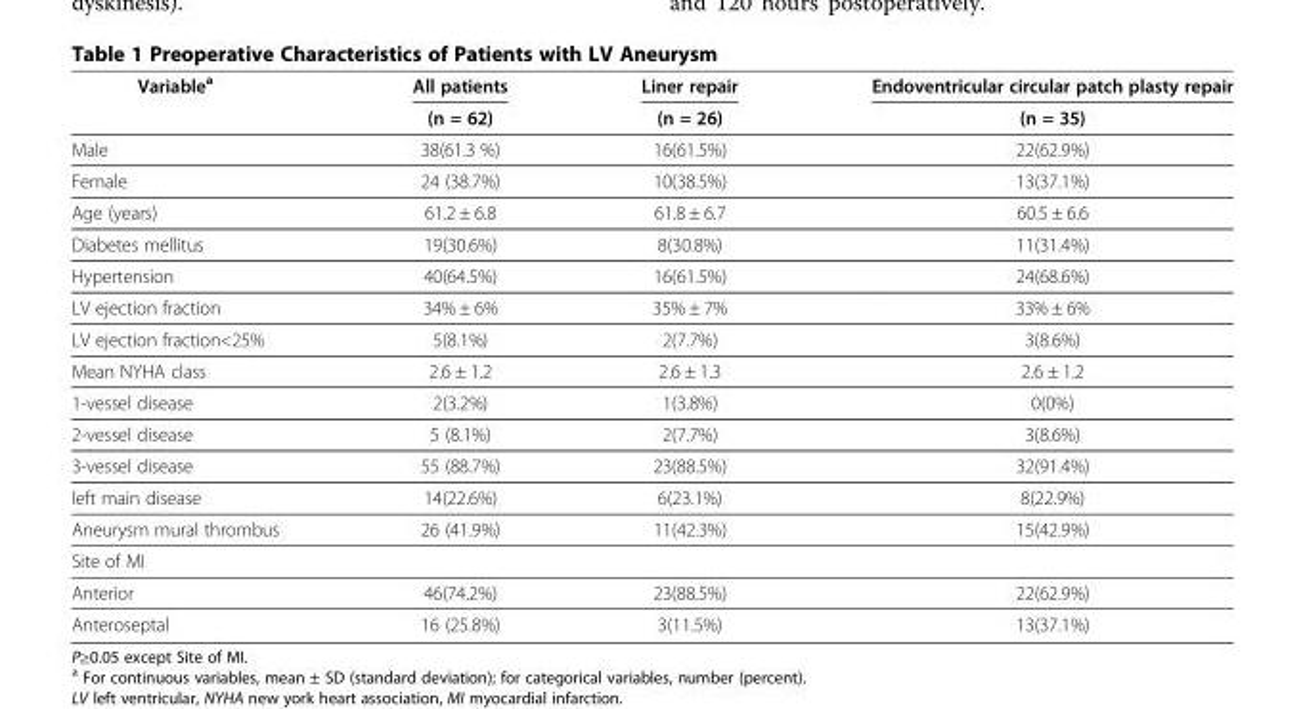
<table><thead><tr><td rowspan="2">Variable<sup>a</sup></td><td rowspan="2">All patients (n = 62)</td><td rowspan="2">Liner repair (n = 26)</td><td rowspan="2">Endoventricular circular patch plasty repair (n = 35)</td></tr><tr></tr></thead><tbody><tr><td>Male</td><td>38(61.3 %)</td><td>16(61.5%)</td><td>22(62.9%)</td></tr><tr><td>Female</td><td>24 (38.7%)</td><td>10(38.5%)</td><td>13(37.1%)</td></tr><tr><td>Age (years)</td><td>61.2 ± 6.8</td><td>61.8 ± 6.7</td><td>60.5 ± 6.6</td></tr><tr><td>Diabetes mellitus</td><td>19(30.6%)</td><td>8(30.8%)</td><td>11(31.4%)</td></tr><tr><td>Hypertension</td><td>40(64.5%)</td><td>16(61.5%)</td><td>24(68.6%)</td></tr><tr><td>LV ejection fraction</td><td>34% ± 6%</td><td>35% ± 7%</td><td>33% ± 6%</td></tr><tr><td>LV ejection fraction&lt;25%</td><td>5(8.1%)</td><td>2(7.7%)</td><td>3(8.6%)</td></tr><tr><td>Mean NYHA class</td><td>2.6 ± 1.2</td><td>2.6 ± 1.3</td><td>2.6 ± 1.2</td></tr><tr><td>1-vessel disease</td><td>2(3.2%)</td><td>1(3.8%)</td><td>0(0%)</td></tr><tr><td>2-vessel disease</td><td>5 (8.1%)</td><td>2(7.7%)</td><td>3(8.6%)</td></tr><tr><td>3-vessel disease</td><td>55 (88.7%)</td><td>23(88.5%)</td><td>32(91.4%)</td></tr><tr><td>left main disease</td><td>14(22.6%)</td><td>6(23.1%)</td><td>8(22.9%)</td></tr><tr><td>Aneurysm mural thrombus</td><td>26 (41.9%)</td><td>11(42.3%)</td><td>15(42.9%)</td></tr><tr><td colspan="4">Site of MI</td></tr><tr><td>Anterior</td><td>46(74.2%)</td><td>23(88.5%)</td><td>22(62.9%)</td></tr><tr><td>Anteroseptal</td><td>16 (25.8%)</td><td>3(11.5%)</td><td>13(37.1%)</td></tr></tbody></table>